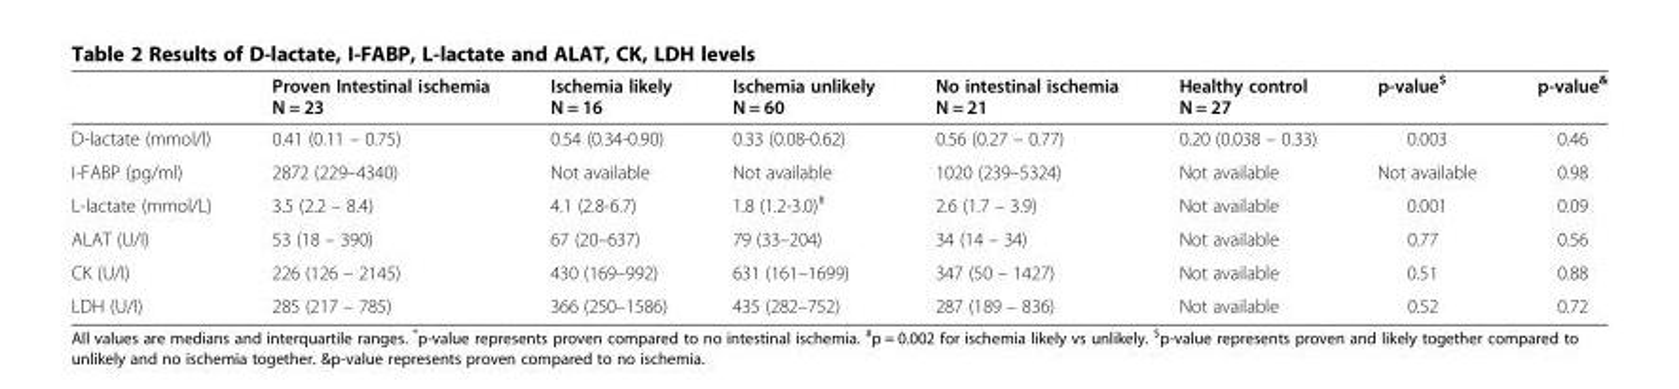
<table><thead><tr><td></td><td>Proven Intestinal ischemia N = 23</td><td>Ischemia likely N = 16</td><td>Ischemia unlikely N = 60</td><td>No intestinal ischemia N = 21</td><td>Healthy control N = 27</td><td>p-value<sup>$</sup></td><td>p-value<sup>&amp;</sup></td></tr></thead><tbody><tr><td>D-lactate (mmol/l)</td><td>0.41 (0.11 – 0.75)</td><td>0.54 (0.34-0.90)</td><td>0.33 (0.08-0.62)</td><td>0.56 (0.27 – 0.77)</td><td>0.20 (0.038 – 0.33)</td><td>0.003</td><td>0.46</td></tr><tr><td>I-FABP (pg/ml)</td><td>2872 (229–4340)</td><td>Not available</td><td>Not available</td><td>1020 (239–5324)</td><td>Not available</td><td>Not available</td><td>0.98</td></tr><tr><td>L-lactate (mmol/L)</td><td>3.5 (2.2 – 8.4)</td><td>4.1 (2.8-6.7)</td><td>1.8 (1.2-3.0)<sup>#</sup></td><td>2.6 (1.7 – 3.9)</td><td>Not available</td><td>0.001</td><td>0.09</td></tr><tr><td>ALAT (U/I)</td><td>53 (18 – 390)</td><td>67 (20–637)</td><td>79 (33–204)</td><td>34 (14 – 34)</td><td>Not available</td><td>0.77</td><td>0.56</td></tr><tr><td>CK (U/I)</td><td>226 (126 – 2145)</td><td>430 (169–992)</td><td>631 (161–1699)</td><td>347 (50 – 1427)</td><td>Not available</td><td>0.51</td><td>0.88</td></tr><tr><td>LDH (U/I)</td><td>285 (217 – 785)</td><td>366 (250–1586)</td><td>435 (282–752)</td><td>287 (189 – 836)</td><td>Not available</td><td>0.52</td><td>0.72</td></tr></tbody></table>